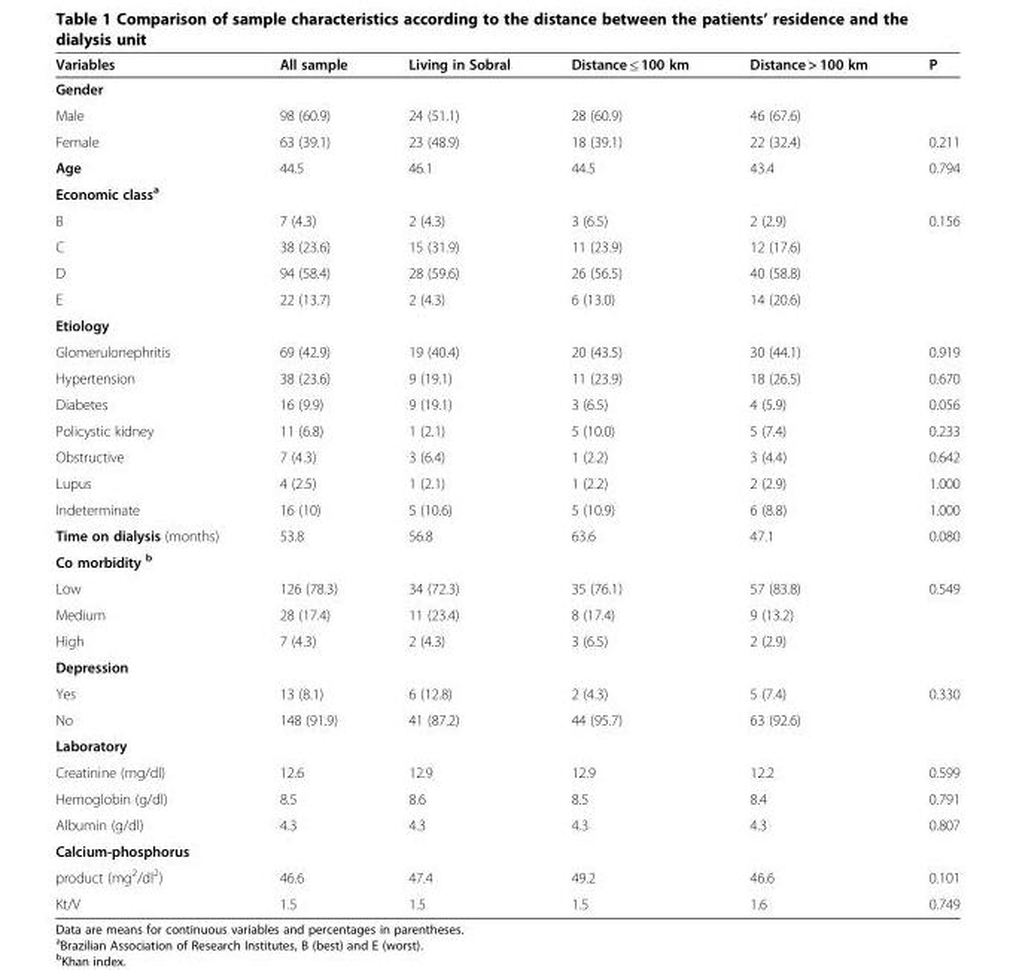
<table><thead><tr><td>Variables</td><td>All sample</td><td>Living in Sobral</td><td>Distance ≤ 100 km</td><td>Distance &gt; 100 km</td><td>P</td></tr></thead><tbody><tr><td colspan="6">Gender</td></tr><tr><td>Male</td><td>98 (60.9)</td><td>24 (51.1)</td><td>28 (60.9)</td><td>46 (67.6)</td><td></td></tr><tr><td>Female</td><td>63 (39.1)</td><td>23 (48.9)</td><td>18 (39.1)</td><td>22 (32.4)</td><td>0.211</td></tr><tr><td>Age</td><td>44.5</td><td>46.1</td><td>44.5</td><td>43.4</td><td>0.794</td></tr><tr><td colspan="6">Economic class<sup>a</sup></td></tr><tr><td>B</td><td>7 (4.3)</td><td>2 (4.3)</td><td>3 (6.5)</td><td>2 (2.9)</td><td>0.156</td></tr><tr><td>C</td><td>38 (23.6)</td><td>15 (31.9)</td><td>11 (23.9)</td><td>12 (17.6)</td><td></td></tr><tr><td>D</td><td>94 (58.4)</td><td>28 (59.6)</td><td>26 (56.5)</td><td>40 (58.8)</td><td></td></tr><tr><td>E</td><td>22 (13.7)</td><td>2 (4.3)</td><td>6 (13.0)</td><td>14 (20.6)</td><td></td></tr><tr><td colspan="6">Etiology</td></tr><tr><td>Glomerulonephritis</td><td>69 (42.9)</td><td>19 (40.4)</td><td>20 (43.5)</td><td>30 (44.1)</td><td>0.919</td></tr><tr><td>Hypertension</td><td>38 (23.6)</td><td>9 (19.1)</td><td>11 (23.9)</td><td>18 (26.5)</td><td>0.670</td></tr><tr><td>Diabetes</td><td>16 (9.9)</td><td>9 (19.1)</td><td>3 (6.5)</td><td>4 (5.9)</td><td>0.056</td></tr><tr><td>Policystic kidney</td><td>11 (6.8)</td><td>1 (2.1)</td><td>5 (10.0)</td><td>5 (7.4)</td><td>0.233</td></tr><tr><td>Obstructive</td><td>7 (4.3)</td><td>3 (6.4)</td><td>1 (2.2)</td><td>3 (4.4)</td><td>0.642</td></tr><tr><td>Lupus</td><td>4 (2.5)</td><td>1 (2.1)</td><td>1 (2.2)</td><td>2 (2.9)</td><td>1.000</td></tr><tr><td>Indeterminate</td><td>16 (10)</td><td>5 (10.6)</td><td>5 (10.9)</td><td>6 (8.8)</td><td>1.000</td></tr><tr><td>Time on dialysis (months)</td><td>53.8</td><td>56.8</td><td>63.6</td><td>47.1</td><td>0.080</td></tr><tr><td colspan="6">Co morbidity <sup>b</sup></td></tr><tr><td>Low</td><td>126 (78.3)</td><td>34 (72.3)</td><td>35 (76.1)</td><td>57 (83.8)</td><td>0.549</td></tr><tr><td>Medium</td><td>28 (17.4)</td><td>11 (23.4)</td><td>8 (17.4)</td><td>9 (13.2)</td><td></td></tr><tr><td>High</td><td>7 (4.3)</td><td>2 (4.3)</td><td>3 (6.5)</td><td>2 (2.9)</td><td></td></tr><tr><td colspan="6">Depression</td></tr><tr><td>Yes</td><td>13 (8.1)</td><td>6 (12.8)</td><td>2 (4.3)</td><td>5 (7.4)</td><td>0.330</td></tr><tr><td>No</td><td>148 (91.9)</td><td>41 (87.2)</td><td>44 (95.7)</td><td>63 (92.6)</td><td></td></tr><tr><td colspan="6">Laboratory</td></tr><tr><td>Creatinine (mg/dl)</td><td>12.6</td><td>12.9</td><td>12.9</td><td>12.2</td><td>0.599</td></tr><tr><td>Hemoglobin (g/dl)</td><td>8.5</td><td>8.6</td><td>8.5</td><td>8.4</td><td>0.791</td></tr><tr><td>Albumin (g/dl)</td><td>4.3</td><td>4.3</td><td>4.3</td><td>4.3</td><td>0.807</td></tr><tr><td colspan="6">Calcium-phosphorus</td></tr><tr><td>product (mg<sup>2</sup>/dl<sup>2</sup>)</td><td>46.6</td><td>47.4</td><td>49.2</td><td>46.6</td><td>0.101</td></tr><tr><td>Kt/V</td><td>1.5</td><td>1.5</td><td>1.5</td><td>1.6</td><td>0.749</td></tr></tbody></table>